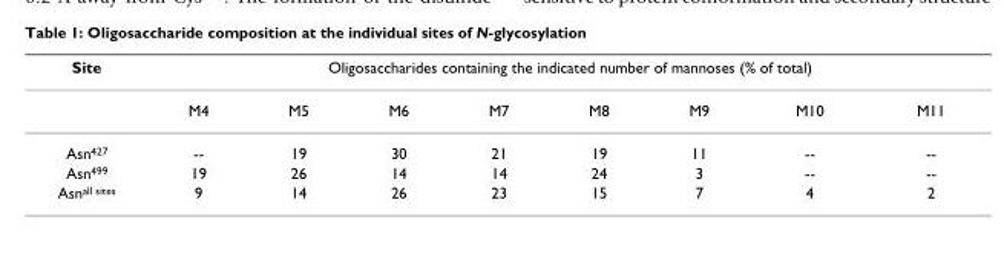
<table><thead><tr><td rowspan="2">Site</td><td colspan="8">Oligosaccharides containing the indicated number of mannoses (% of total)</td></tr><tr><td>M4</td><td>M5</td><td>M6</td><td>M7</td><td>M8</td><td>M9</td><td>M10</td><td>M11</td></tr></thead><tbody><tr><td>Asn<sup>427</sup></td><td>--</td><td>19</td><td>30</td><td>21</td><td>19</td><td>11</td><td>--</td><td>--</td></tr><tr><td>Asn<sup>499</sup></td><td>19</td><td>26</td><td>14</td><td>14</td><td>24</td><td>3</td><td>--</td><td>--</td></tr><tr><td>Asn<sup>all sites</sup></td><td>9</td><td>14</td><td>26</td><td>23</td><td>15</td><td>7</td><td>4</td><td>2</td></tr></tbody></table>